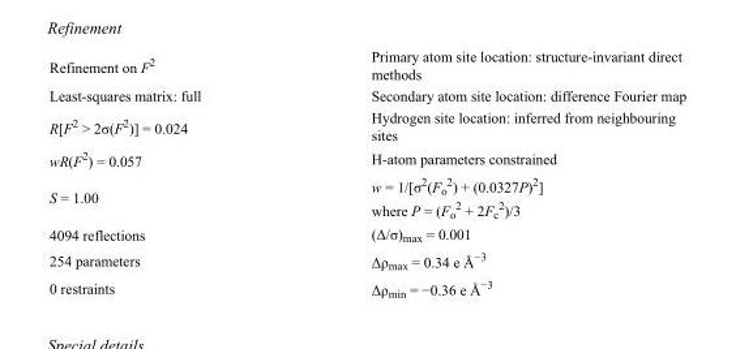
<table><tbody><tr><td>Refinement on F<sup>2</sup></td><td>Primary atom site location: structure-invariant direct methods</td></tr><tr><td>Least-squares matrix: full</td><td>Secondary atom site location: difference Fourier map</td></tr><tr><td>R[F<sup>2</sup> &gt; 2σ(F<sup>2</sup>)] = 0.024</td><td>Hydrogen site location: inferred from neighbouring sites</td></tr><tr><td>wR(F<sup>2</sup>) = 0.057</td><td>H-atom parameters constrained</td></tr><tr><td>S = 1.00</td><td>w = 1/[σ<sup>2</sup>(F<sub>o</sub> <sup>2</sup>) + (0.0327P)<sup>2</sup>] where P = (F<sub>o</sub> <sup>2</sup> + 2F<sub>c</sub> <sup>2</sup>)/3</td></tr><tr><td>4094 reflections</td><td>(Δ/σ)<sub>max</sub> = 0.001</td></tr><tr><td>254 parameters</td><td>Δρ<sub>max</sub> = 0.34 e Å<sup>−3</sup></td></tr><tr><td>0 restraints</td><td>Δρ<sub>min</sub> = −0.36 e Å<sup>−3</sup></td></tr></tbody></table>